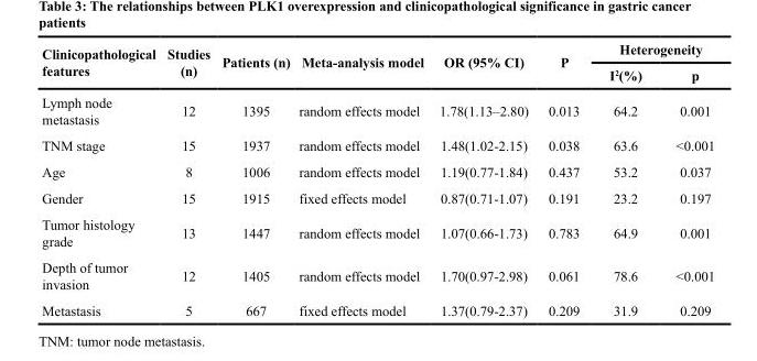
<table><thead><tr><td rowspan="2">Clinicopathological features</td><td rowspan="2">Studies (n)</td><td rowspan="2">Patients (n)</td><td rowspan="2">Meta-analysis model</td><td rowspan="2">OR (95% CI)</td><td rowspan="2">P</td><td colspan="2">Heterogeneity</td></tr><tr><td>I<sup>2</sup>(%)</td><td>p</td></tr></thead><tbody><tr><td>Lymph node metastasis</td><td>12</td><td>1395</td><td>random effects model</td><td>1.78(1.13–2.80)</td><td>0.013</td><td>64.2</td><td>0.001</td></tr><tr><td>TNM stage</td><td>15</td><td>1937</td><td>random effects model</td><td>1.48(1.02-2.15)</td><td>0.038</td><td>63.6</td><td>&lt;0.001</td></tr><tr><td>Age</td><td>8</td><td>1006</td><td>random effects model</td><td>1.19(0.77-1.84)</td><td>0.437</td><td>53.2</td><td>0.037</td></tr><tr><td>Gender</td><td>15</td><td>1915</td><td>fixed effects model</td><td>0.87(0.71-1.07)</td><td>0.191</td><td>23.2</td><td>0.197</td></tr><tr><td>Tumor histology grade</td><td>13</td><td>1447</td><td>random effects model</td><td>1.07(0.66-1.73)</td><td>0.783</td><td>64.9</td><td>0.001</td></tr><tr><td>Depth of tumor invasion</td><td>12</td><td>1405</td><td>random effects model</td><td>1.70(0.97-2.98)</td><td>0.061</td><td>78.6</td><td>&lt;0.001</td></tr><tr><td>Metastasis</td><td>5</td><td>667</td><td>fixed effects model</td><td>1.37(0.79-2.37)</td><td>0.209</td><td>31.9</td><td>0.209</td></tr></tbody></table>